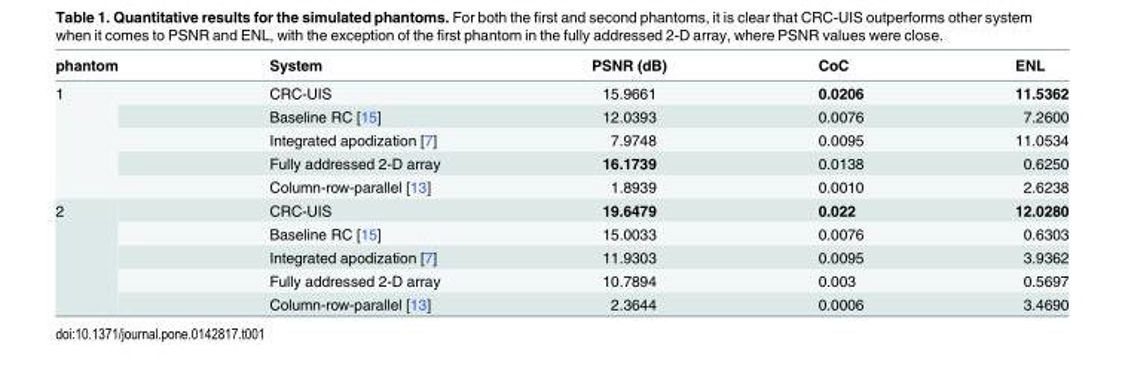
<table><thead><tr><td>phantom</td><td>System</td><td>PSNR (dB)</td><td>CoC</td><td>ENL</td></tr></thead><tbody><tr><td rowspan="5">1</td><td>CRC-UIS</td><td>15.9661</td><td>0.0206</td><td>11.5362</td></tr><tr><td>Baseline RC [15]</td><td>12.0393</td><td>0.0076</td><td>7.2600</td></tr><tr><td>Integrated apodization [7]</td><td>7.9748</td><td>0.0095</td><td>11.0534</td></tr><tr><td>Fully addressed 2-D array</td><td>16.1739</td><td>0.0138</td><td>0.6250</td></tr><tr><td>Column-row-parallel [13]</td><td>1.8939</td><td>0.0010</td><td>2.6238</td></tr><tr><td rowspan="5">2</td><td>CRC-UIS</td><td>19.6479</td><td>0.022</td><td>12.0280</td></tr><tr><td>Baseline RC [15]</td><td>15.0033</td><td>0.0076</td><td>0.6303</td></tr><tr><td>Integrated apodization [7]</td><td>11.9303</td><td>0.0095</td><td>3.9362</td></tr><tr><td>Fully addressed 2-D array</td><td>10.7894</td><td>0.003</td><td>0.5697</td></tr><tr><td>Column-row-parallel [13]</td><td>2.3644</td><td>0.0006</td><td>3.4690</td></tr></tbody></table>